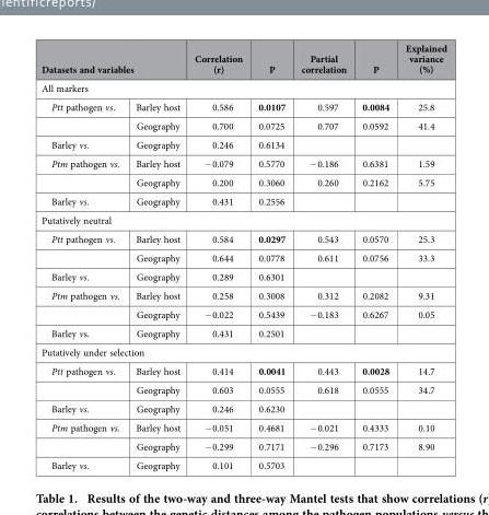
<table><thead><tr><td colspan="2">Datasets and variables</td><td>Correlation (r)</td><td>P</td><td>Partial correlation</td><td>P</td><td>Explained variance (%)</td></tr><tr><td colspan="7">All markers</td></tr><tr><td>Ptt pathogen vs.</td><td>Barley host</td><td>0.586</td><td>0.0107</td><td>0.597</td><td>0.0084</td><td>25.8</td></tr></thead><tbody><tr><td></td><td>Geography</td><td>0.700</td><td>0.0725</td><td>0.707</td><td>0.0592</td><td>41.4</td></tr><tr><td>Barley vs.</td><td>Geography</td><td>0.246</td><td>0.6134</td><td></td><td></td><td></td></tr><tr><td rowspan="2">Ptm pathogen vs.</td><td>Barley host</td><td>− 0.079</td><td>0.5770</td><td>− 0.186</td><td>0.6381</td><td>1.59</td></tr><tr><td>Geography</td><td>0.200</td><td>0.3060</td><td>0.260</td><td>0.2162</td><td>5.75</td></tr><tr><td>Barley vs.</td><td>Geography</td><td>0.431</td><td>0.2556</td><td></td><td></td><td></td></tr><tr><td colspan="7">Putatively neutral</td></tr><tr><td rowspan="2">Ptt pathogen vs.</td><td>Barley host</td><td>0.584</td><td>0.0297</td><td>0.543</td><td>0.0570</td><td>25.3</td></tr><tr><td>Geography</td><td>0.644</td><td>0.0778</td><td>0.611</td><td>0.0756</td><td>33.3</td></tr><tr><td>Barley vs.</td><td>Geography</td><td>0.289</td><td>0.6301</td><td></td><td></td><td></td></tr><tr><td rowspan="2">Ptm pathogen vs.</td><td>Barley host</td><td>0.258</td><td>0.3008</td><td>0.312</td><td>0.2082</td><td>9.31</td></tr><tr><td>Geography</td><td>− 0.022</td><td>0.5439</td><td>− 0.183</td><td>0.6267</td><td>0.05</td></tr><tr><td>Barley vs.</td><td>Geography</td><td>0.431</td><td>0.2501</td><td></td><td></td><td></td></tr><tr><td colspan="7">Putatively under selection</td></tr><tr><td rowspan="2">Ptt pathogen vs.</td><td>Barley host</td><td>0.414</td><td>0.0041</td><td>0.443</td><td>0.0028</td><td>14.7</td></tr><tr><td>Geography</td><td>0.603</td><td>0.0555</td><td>0.618</td><td>0.0555</td><td>34.7</td></tr><tr><td>Barley vs.</td><td>Geography</td><td>0.246</td><td>0.6230</td><td></td><td></td><td></td></tr><tr><td rowspan="2">Ptm pathogen vs.</td><td>Barley host</td><td>− 0.051</td><td>0.4681</td><td>− 0.021</td><td>0.4333</td><td>0.10</td></tr><tr><td>Geography</td><td>− 0.299</td><td>0.7171</td><td>− 0.296</td><td>0.7173</td><td>8.90</td></tr><tr><td>Barley vs.</td><td>Geography</td><td>0.101</td><td>0.5703</td><td></td><td></td><td></td></tr></tbody></table>